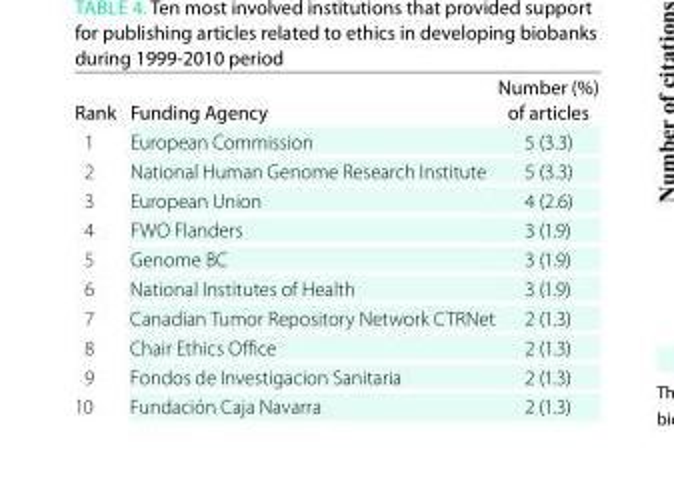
<table><thead><tr><td>Rank</td><td>Funding Agency</td><td>Number (%) of articles</td></tr></thead><tbody><tr><td>1</td><td>European Commission</td><td>5 (3.3)</td></tr><tr><td>2</td><td>National Human Genome Research Institute</td><td>5 (3.3)</td></tr><tr><td>3</td><td>European Union</td><td>4 (2.6)</td></tr><tr><td>4</td><td>FWO Flanders</td><td>3 (1.9)</td></tr><tr><td>5</td><td>Genome BC</td><td>3 (1.9)</td></tr><tr><td>6</td><td>National Institutes of Health</td><td>3 (1.9)</td></tr><tr><td>7</td><td>Canadian Tumor Repository Network CTRNet</td><td>2 (1.3)</td></tr><tr><td>8</td><td>Chair Ethics Office</td><td>2 (1.3)</td></tr><tr><td>9</td><td>Fondos de Investigacion Sanitaria</td><td>2 (1.3)</td></tr><tr><td>10</td><td>Fundación Caja Navarra</td><td>2 (1.3)</td></tr></tbody></table>